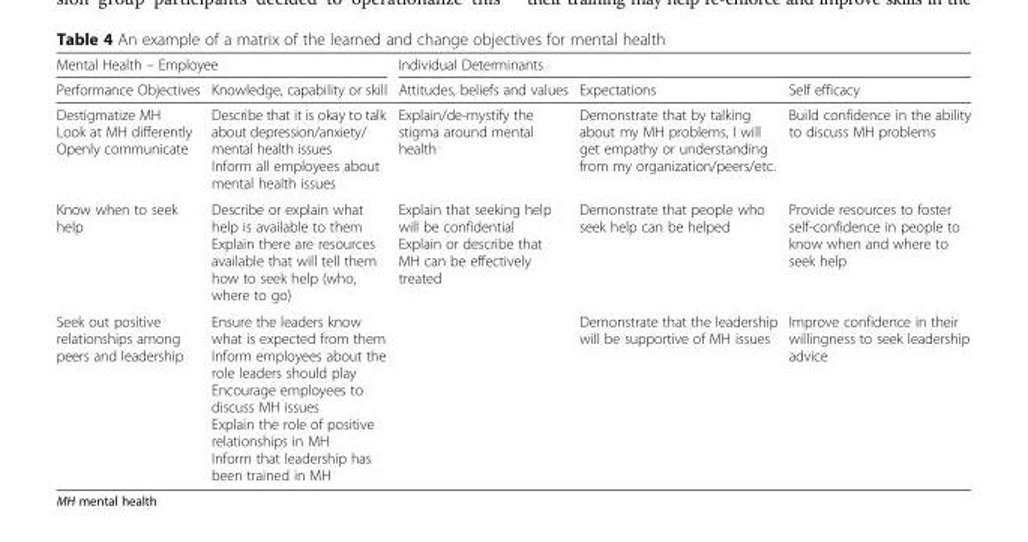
<table><thead><tr><td colspan="2">Mental Health – Employee</td><td colspan="3">Individual Determinants</td></tr><tr><td>Performance Objectives</td><td>Knowledge, capability or skill</td><td>Attitudes, beliefs and values</td><td>Expectations</td><td>Self efficacy</td></tr></thead><tbody><tr><td>Destigmatize MH Look at MH differently Openly communicate</td><td>Describe that it is okay to talk about depression/anxiety/ mental health issues Inform all employees about mental health issues</td><td>Explain/de-mystify the stigma around mental health</td><td>Demonstrate that by talking about my MH problems, I will get empathy or understanding from my organization/peers/etc.</td><td>Build confidence in the ability to discuss MH problems</td></tr><tr><td>Know when to seek help</td><td>Describe or explain what help is available to them Explain there are resources available that will tell them how to seek help (who, where to go)</td><td>Explain that seeking help will be confidential Explain or describe that MH can be effectively treated</td><td>Demonstrate that people who seek help can be helped</td><td>Provide resources to foster self-confidence in people to know when and where to seek help</td></tr><tr><td>Seek out positive relationships among peers and leadership</td><td>Ensure the leaders know what is expected from them Inform employees about the role leaders should play Encourage employees to discuss MH issues Explain the role of positive relationships in MH Inform that leadership has been trained in MH</td><td></td><td>Demonstrate that the leadership will be supportive of MH issues</td><td>Improve confidence in their willingness to seek leadership advice</td></tr></tbody></table>